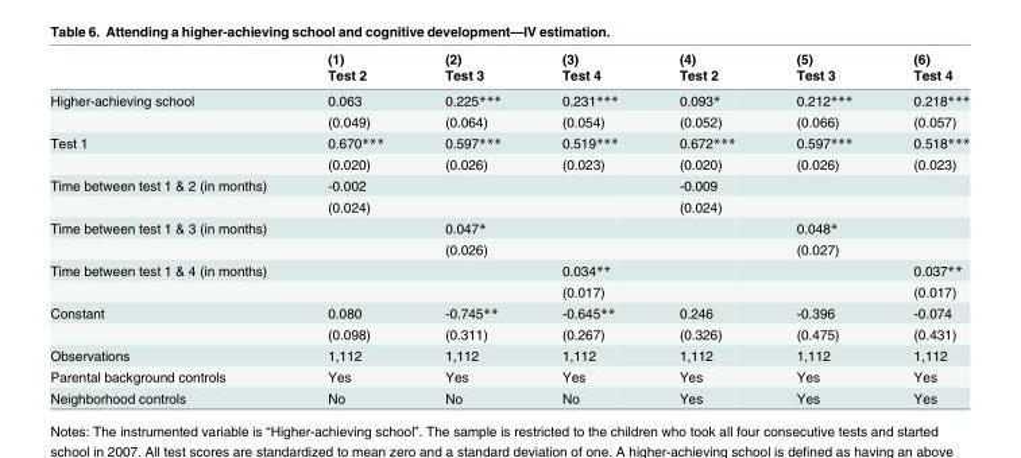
<table><thead><tr><td rowspan="2"></td><td rowspan="2">(1) Test 2</td><td rowspan="2">(2) Test 3</td><td rowspan="2">(3) Test 4</td><td rowspan="2">(4) Test 2</td><td rowspan="2">(5) Test 3</td><td rowspan="2">(6) Test 4</td></tr><tr></tr></thead><tbody><tr><td rowspan="2">Higher-achieving school</td><td>0.063</td><td>0.225***</td><td>0.231***</td><td>0.093*</td><td>0.212***</td><td>0.218***</td></tr><tr><td>(0.049)</td><td>(0.064)</td><td>(0.054)</td><td>(0.052)</td><td>(0.066)</td><td>(0.057)</td></tr><tr><td rowspan="2">Test 1</td><td>0.670***</td><td>0.597***</td><td>0.519***</td><td>0.672***</td><td>0.597***</td><td>0.518***</td></tr><tr><td>(0.020)</td><td>(0.026)</td><td>(0.023)</td><td>(0.020)</td><td>(0.026)</td><td>(0.023)</td></tr><tr><td rowspan="2">Time between test 1 &amp; 2 (in months)</td><td>-0.002</td><td></td><td></td><td>-0.009</td><td></td><td></td></tr><tr><td>(0.024)</td><td></td><td></td><td>(0.024)</td><td></td><td></td></tr><tr><td rowspan="2">Time between test 1 &amp; 3 (in months)</td><td></td><td>0.047*</td><td></td><td></td><td>0.048*</td><td></td></tr><tr><td></td><td>(0.026)</td><td></td><td></td><td>(0.027)</td><td></td></tr><tr><td rowspan="2">Time between test 1 &amp; 4 (in months)</td><td></td><td></td><td>0.034**</td><td></td><td></td><td>0.037**</td></tr><tr><td></td><td></td><td>(0.017)</td><td></td><td></td><td>(0.017)</td></tr><tr><td rowspan="2">Constant</td><td>0.080</td><td>-0.745**</td><td>-0.645**</td><td>0.246</td><td>-0.396</td><td>-0.074</td></tr><tr><td>(0.098)</td><td>(0.311)</td><td>(0.267)</td><td>(0.326)</td><td>(0.475)</td><td>(0.431)</td></tr><tr><td>Observations</td><td>1,112</td><td>1,112</td><td>1,112</td><td>1,112</td><td>1,112</td><td>1,112</td></tr><tr><td>Parental background controls</td><td>Yes</td><td>Yes</td><td>Yes</td><td>Yes</td><td>Yes</td><td>Yes</td></tr><tr><td>Neighborhood controls</td><td>No</td><td>No</td><td>No</td><td>Yes</td><td>Yes</td><td>Yes</td></tr></tbody></table>